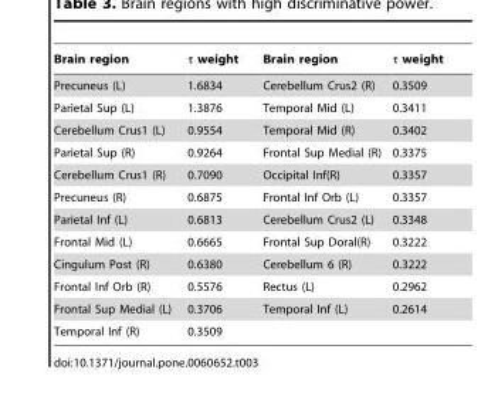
<table><thead><tr><td>Brain region</td><td>τ weight</td><td>Brain region</td><td>τ weight</td></tr></thead><tbody><tr><td>Precuneus (L)</td><td>1.6834</td><td>Cerebellum Crus2 (R)</td><td>0.3509</td></tr><tr><td>Parietal Sup (L)</td><td>1.3876</td><td>Temporal Mid (L)</td><td>0.3411</td></tr><tr><td>Cerebellum Crus1 (L)</td><td>0.9554</td><td>Temporal Mid (R)</td><td>0.3402</td></tr><tr><td>Parietal Sup (R)</td><td>0.9264</td><td>Frontal Sup Medial (R)</td><td>0.3375</td></tr><tr><td>Cerebellum Crus1 (R)</td><td>0.7090</td><td>Occipital Inf(R)</td><td>0.3357</td></tr><tr><td>Precuneus (R)</td><td>0.6875</td><td>Frontal Inf Orb (L)</td><td>0.3357</td></tr><tr><td>Parietal Inf (L)</td><td>0.6813</td><td>Cerebellum Crus2 (L)</td><td>0.3348</td></tr><tr><td>Frontal Mid (L)</td><td>0.6665</td><td>Frontal Sup Doral(R)</td><td>0.3222</td></tr><tr><td>Cingulum Post (R)</td><td>0.6380</td><td>Cerebellum 6 (R)</td><td>0.3222</td></tr><tr><td>Frontal Inf Orb (R)</td><td>0.5576</td><td>Rectus (L)</td><td>0.2962</td></tr><tr><td>Frontal Sup Medial (L)</td><td>0.3706</td><td>Temporal Inf (L)</td><td>0.2614</td></tr><tr><td>Temporal Inf (R)</td><td>0.3509</td><td></td><td></td></tr></tbody></table>